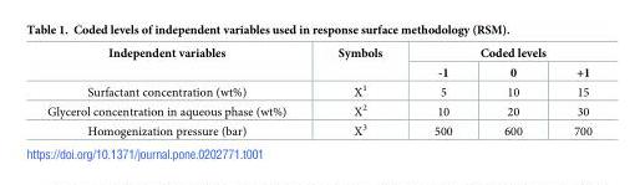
<table><thead><tr><td rowspan="2">Independent variables</td><td rowspan="2">Symbols</td><td colspan="3">Coded levels</td></tr><tr><td>-1</td><td>0</td><td>+1</td></tr></thead><tbody><tr><td>Surfactant concentration (wt%)</td><td>X<sup>1</sup></td><td>5</td><td>10</td><td>15</td></tr><tr><td>Glycerol concentration in aqueous phase (wt%)</td><td>X<sup>2</sup></td><td>10</td><td>20</td><td>30</td></tr><tr><td>Homogenization pressure (bar)</td><td>X<sup>3</sup></td><td>500</td><td>600</td><td>700</td></tr></tbody></table>